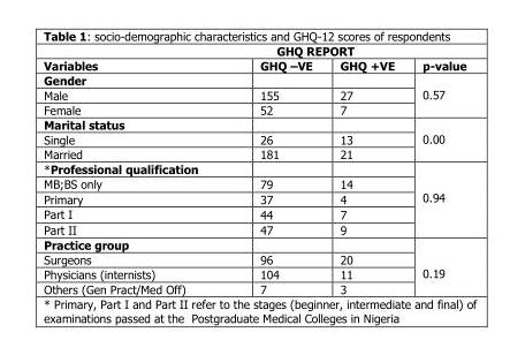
<table><thead><tr><td colspan="4">GHQ REPORT</td></tr><tr><td>Variables</td><td>GHQ –VE</td><td>GHQ +VE</td><td>p-value</td></tr></thead><tbody><tr><td colspan="3">Gender</td><td rowspan="3">0.57</td></tr><tr><td>Male</td><td>155</td><td>27</td></tr><tr><td>Female</td><td>52</td><td>7</td></tr><tr><td colspan="3">Marital status</td><td rowspan="3">0.00</td></tr><tr><td>Single</td><td>26</td><td>13</td></tr><tr><td>Married</td><td>181</td><td>21</td></tr><tr><td colspan="3">*Professional qualification</td><td rowspan="5">0.94</td></tr><tr><td>MB;BS only</td><td>79</td><td>14</td></tr><tr><td>Primary</td><td>37</td><td>4</td></tr><tr><td>Part I</td><td>44</td><td>7</td></tr><tr><td>Part II</td><td>47</td><td>9</td></tr><tr><td colspan="3">Practice group</td><td rowspan="4">0.19</td></tr><tr><td>Surgeons</td><td>96</td><td>20</td></tr><tr><td>Physicians (internists)</td><td>104</td><td>11</td></tr><tr><td>Others (Gen Pract/Med Off)</td><td>7</td><td>3</td></tr></tbody></table>